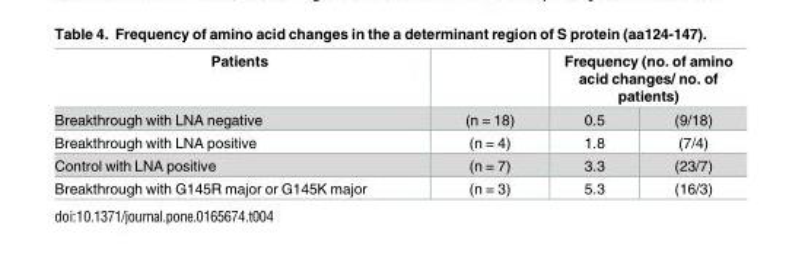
<table><thead><tr><td rowspan="2">Patients Breakthrough with LNA negative</td><td rowspan="2">(n = 18)</td><td colspan="2">Frequency (no. of amino acid changes/ no. of patients)</td></tr><tr><td>0.5</td><td>(9/18)</td></tr></thead><tbody><tr><td>Breakthrough with LNA positive</td><td>(n = 4)</td><td>1.8</td><td>(7/4)</td></tr><tr><td>Control with LNA positive</td><td>(n = 7)</td><td>3.3</td><td>(23/7)</td></tr><tr><td>Breakthrough with G145R major or G145K major</td><td>(n = 3)</td><td>5.3</td><td>(16/3)</td></tr></tbody></table>